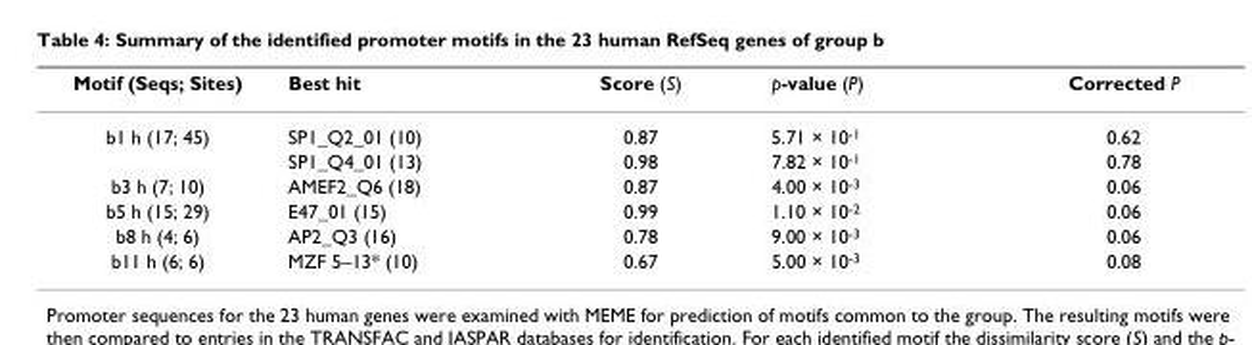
<table><thead><tr><td>Motif (Seqs; Sites)</td><td>Best hit</td><td>Score (S)</td><td>p-value (P)</td><td>Corrected P</td></tr></thead><tbody><tr><td rowspan="2">b1 h (17; 45)</td><td>SP1_Q2_01 (10)</td><td>0.87</td><td>5.71 × 10<sup>-1</sup></td><td>0.62</td></tr><tr><td>SP1_Q4_01 (13)</td><td>0.98</td><td>7.82 × 10<sup>-1</sup></td><td>0.78</td></tr><tr><td>b3 h (7; 10)</td><td>AMEF2_Q6 (18)</td><td>0.87</td><td>4.00 × 10<sup>-3</sup></td><td>0.06</td></tr><tr><td>b5 h (15; 29)</td><td>E47_01 (15)</td><td>0.99</td><td>1.10 × 10<sup>-2</sup></td><td>0.06</td></tr><tr><td>b8 h (4; 6)</td><td>AP2_Q3 (16)</td><td>0.78</td><td>9.00 × 10<sup>-3</sup></td><td>0.06</td></tr><tr><td>b11 h (6; 6)</td><td>MZF 5–13* (10)</td><td>0.67</td><td>5.00 × 10<sup>-3</sup></td><td>0.08</td></tr></tbody></table>